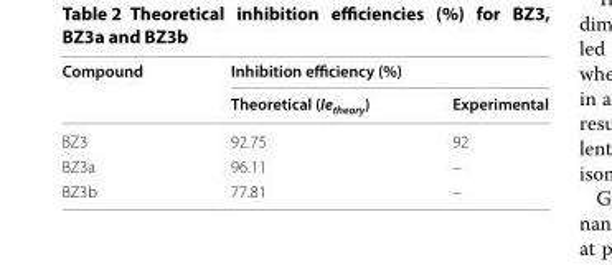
<table><thead><tr><td rowspan="2">Compound</td><td colspan="2">Inhibition efficiency (%)</td></tr><tr><td>Theoretical (Ie<sub>theory</sub>)</td><td>Experimental</td></tr></thead><tbody><tr><td>BZ3</td><td>92.75</td><td>92</td></tr><tr><td>BZ3a</td><td>96.11</td><td>–</td></tr><tr><td>BZ3b</td><td>77.81</td><td>–</td></tr></tbody></table>